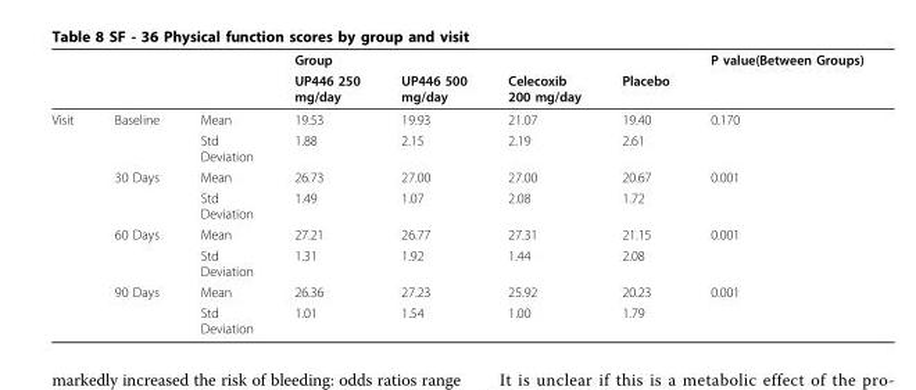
<table><thead><tr><td rowspan="2"></td><td rowspan="2"></td><td rowspan="2"></td><td colspan="4">Group</td><td rowspan="2">P value(Between Groups)</td></tr><tr><td>UP446 250 mg/day</td><td>UP446 500 mg/day</td><td>Celecoxib 200 mg/day</td><td>Placebo</td></tr></thead><tbody><tr><td rowspan="8">Visit</td><td>Baseline</td><td>Mean</td><td>19.53</td><td>19.93</td><td>21.07</td><td>19.40</td><td>0.170</td></tr><tr><td></td><td>Std Deviation</td><td>1.88</td><td>2.15</td><td>2.19</td><td>2.61</td><td></td></tr><tr><td>30 Days</td><td>Mean</td><td>26.73</td><td>27.00</td><td>27.00</td><td>20.67</td><td>0.001</td></tr><tr><td></td><td>Std Deviation</td><td>1.49</td><td>1.07</td><td>2.08</td><td>1.72</td><td></td></tr><tr><td>60 Days</td><td>Mean</td><td>27.21</td><td>26.77</td><td>27.31</td><td>21.15</td><td>0.001</td></tr><tr><td></td><td>Std Deviation</td><td>1.31</td><td>1.92</td><td>1.44</td><td>2.08</td><td></td></tr><tr><td>90 Days</td><td>Mean</td><td>26.36</td><td>27.23</td><td>25.92</td><td>20.23</td><td>0.001</td></tr><tr><td></td><td>Std Deviation</td><td>1.01</td><td>1.54</td><td>1.00</td><td>1.79</td><td></td></tr></tbody></table>